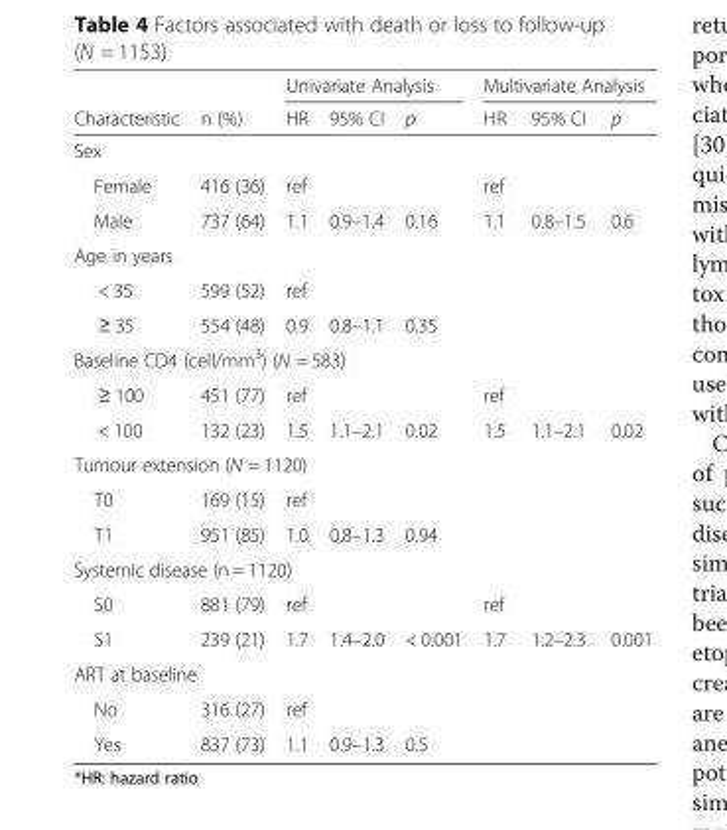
<table><thead><tr><td rowspan="2">Characteristic</td><td rowspan="2">n (%)</td><td colspan="3">Univariate Analysis</td><td colspan="3">Multivariate Analysis</td></tr><tr><td>HR</td><td>95% CI</td><td>p</td><td>HR</td><td>95% CI</td><td>p</td></tr></thead><tbody><tr><td colspan="8">Sex</td></tr><tr><td>Female</td><td>416 (36)</td><td>ref</td><td></td><td></td><td>ref</td><td></td><td></td></tr><tr><td>Male</td><td>737 (64)</td><td>1.1</td><td>0.9–1.4</td><td>0.16</td><td>1.1</td><td>0.8–1.5</td><td>0.6</td></tr><tr><td colspan="8">Age in years</td></tr><tr><td>&lt; 35</td><td>599 (52)</td><td>ref</td><td></td><td></td><td></td><td></td><td></td></tr><tr><td>≥ 35</td><td>554 (48)</td><td>0.9</td><td>0.8–1.1</td><td>0.35</td><td></td><td></td><td></td></tr><tr><td colspan="8">Baseline CD4 (cell/mm<sup>3</sup>) (N = 583)</td></tr><tr><td>≥ 100</td><td>451 (77)</td><td>ref</td><td></td><td></td><td>ref</td><td></td><td></td></tr><tr><td>&lt; 100</td><td>132 (23)</td><td>1.5</td><td>1.1–2.1</td><td>0.02</td><td>1.5</td><td>1.1–2.1</td><td>0.02</td></tr><tr><td colspan="8">Tumour extension (N = 1120)</td></tr><tr><td>T0</td><td>169 (15)</td><td>ref</td><td></td><td></td><td></td><td></td><td></td></tr><tr><td>T1</td><td>951 (85)</td><td>1.0</td><td>0.8–1.3</td><td>0.94</td><td></td><td></td><td></td></tr><tr><td colspan="8">Systemic disease (n = 1120)</td></tr><tr><td>S0</td><td>881 (79)</td><td>ref</td><td></td><td></td><td>ref</td><td></td><td></td></tr><tr><td>S1</td><td>239 (21)</td><td>1.7</td><td>1.4–2.0</td><td>&lt; 0.001</td><td>1.7</td><td>1.2–2.3</td><td>0.001</td></tr><tr><td colspan="8">ART at baseline</td></tr><tr><td>No</td><td>316 (27)</td><td>ref</td><td></td><td></td><td></td><td></td><td></td></tr><tr><td>Yes</td><td>837 (73)</td><td>1.1</td><td>0.9–1.3</td><td>0.5</td><td></td><td></td><td></td></tr></tbody></table>